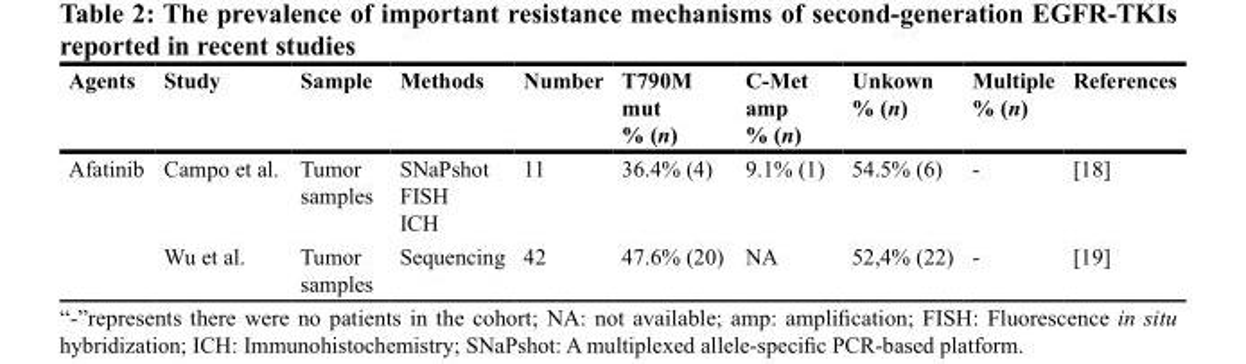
<table><thead><tr><td>Agents</td><td>Study</td><td>Sample</td><td>Methods</td><td>Number</td><td>T790M mut % (n)</td><td>C-Met amp % (n)</td><td>Unkown % (n)</td><td>Multiple % (n)</td><td>References</td></tr></thead><tbody><tr><td rowspan="2">Afatinib</td><td>Campo et al.</td><td>Tumor samples</td><td>SNaPshot FISH ICH</td><td>11</td><td>36.4% (4)</td><td>9.1% (1)</td><td>54.5% (6)</td><td>-</td><td>[18]</td></tr><tr><td>Wu et al.</td><td>Tumor samples</td><td>Sequencing</td><td>42</td><td>47.6% (20)</td><td>NA</td><td>52,4% (22)</td><td>-</td><td>[19]</td></tr></tbody></table>